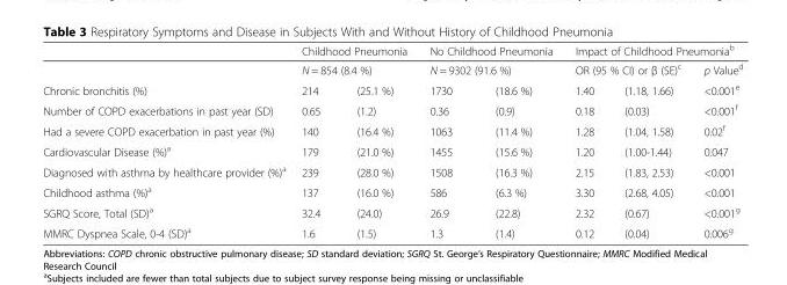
<table><thead><tr><td rowspan="3">Chronic bronchitis (%)</td><td rowspan="2" colspan="2">Childhood Pneumonia N = 854 (8.4 %)</td><td rowspan="2" colspan="2">No Childhood Pneumonia N = 9302 (91.6 %)</td><td colspan="3">Impact of Childhood Pneumonia<sup>b</sup></td></tr><tr><td colspan="2">OR (95 % CI) or β (SE)<sup>c</sup></td><td rowspan="2">p Value<sup>d</sup> &lt;0.001<sup>e</sup></td></tr><tr><td>214</td><td>(25.1 %)</td><td>1730</td><td>(18.6 %)</td><td>1.40</td><td>(1.18, 1.66)</td></tr></thead><tbody><tr><td>Number of COPD exacerbations in past year (SD)</td><td>0.65</td><td>(1.2)</td><td>0.36</td><td>(0.9)</td><td>0.18</td><td>(0.03)</td><td>&lt;0.001<sup>f</sup></td></tr><tr><td>Had a severe COPD exacerbation in past year (%)</td><td>140</td><td>(16.4 %)</td><td>1063</td><td>(11.4 %)</td><td>1.28</td><td>(1.04, 1.58)</td><td>0.02<sup>f</sup></td></tr><tr><td>Cardiovascular Disease (%)<sup>a</sup></td><td>179</td><td>(21.0 %)</td><td>1455</td><td>(15.6 %)</td><td>1.20</td><td>(1.00-1.44)</td><td>0.047</td></tr><tr><td>Diagnosed with asthma by healthcare provider (%)<sup>a</sup></td><td>239</td><td>(28.0 %)</td><td>1508</td><td>(16.3 %)</td><td>2.15</td><td>(1.83, 2.53)</td><td>&lt;0.001</td></tr><tr><td>Childhood asthma (%)<sup>a</sup></td><td>137</td><td>(16.0 %)</td><td>586</td><td>(6.3 %)</td><td>3.30</td><td>(2.68, 4.05)</td><td>&lt;0.001</td></tr><tr><td>SGRQ Score, Total (SD)<sup>a</sup></td><td>32.4</td><td>(24.0)</td><td>26.9</td><td>(22.8)</td><td>2.32</td><td>(0.67)</td><td>&lt;0.001<sup>g</sup></td></tr><tr><td>MMRC Dyspnea Scale, 0-4 (SD)<sup>a</sup></td><td>1.6</td><td>(1.5)</td><td>1.3</td><td>(1.4)</td><td>0.12</td><td>(0.04)</td><td>0.006<sup>g</sup></td></tr></tbody></table>